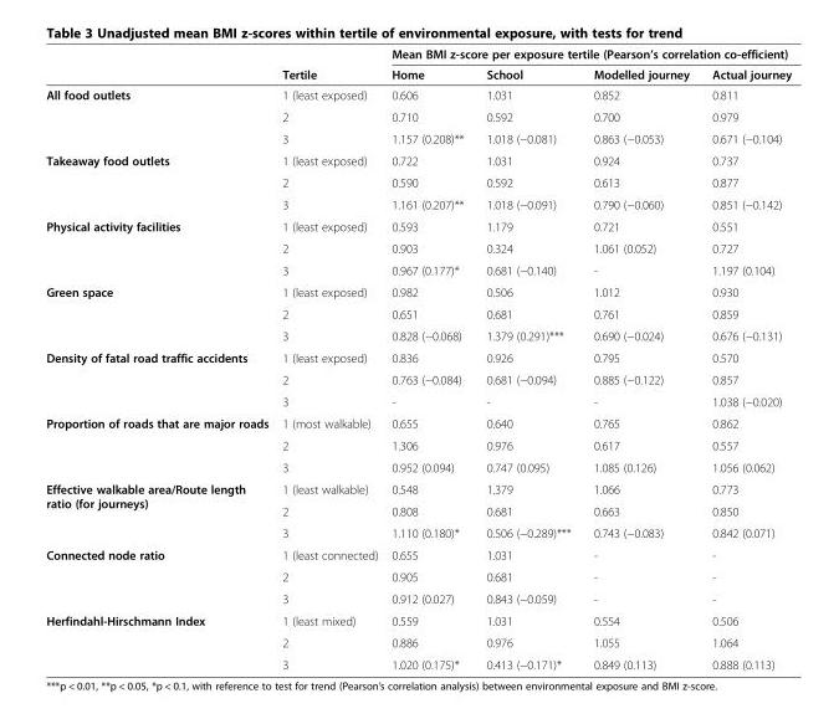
<table><thead><tr><td rowspan="2"></td><td rowspan="2">Tertile</td><td colspan="4">Mean BMI z-score per exposure tertile (Pearson’s correlation co-efficient)</td></tr><tr><td>Home</td><td>School</td><td>Modelled journey</td><td>Actual journey</td></tr></thead><tbody><tr><td rowspan="3">All food outlets</td><td>1 (least exposed)</td><td>0.606</td><td>1.031</td><td>0.852</td><td>0.811</td></tr><tr><td>2</td><td>0.710</td><td>0.592</td><td>0.700</td><td>0.979</td></tr><tr><td>3</td><td>1.157 (0.208)**</td><td>1.018 (−0.081)</td><td>0.863 (−0.053)</td><td>0.671 (−0.104)</td></tr><tr><td rowspan="3">Takeaway food outlets</td><td>1 (least exposed)</td><td>0.722</td><td>1.031</td><td>0.924</td><td>0.737</td></tr><tr><td>2</td><td>0.590</td><td>0.592</td><td>0.613</td><td>0.877</td></tr><tr><td>3</td><td>1.161 (0.207)**</td><td>1.018 (−0.091)</td><td>0.790 (−0.060)</td><td>0.851 (−0.142)</td></tr><tr><td rowspan="3">Physical activity facilities</td><td>1 (least exposed)</td><td>0.593</td><td>1.179</td><td>0.721</td><td>0.551</td></tr><tr><td>2</td><td>0.903</td><td>0.324</td><td>1.061 (0.052)</td><td>0.727</td></tr><tr><td>3</td><td>0.967 (0.177)*</td><td>0.681 (−0.140)</td><td>-</td><td>1.197 (0.104)</td></tr><tr><td rowspan="3">Green space</td><td>1 (least exposed)</td><td>0.982</td><td>0.506</td><td>1.012</td><td>0.930</td></tr><tr><td>2</td><td>0.651</td><td>0.681</td><td>0.761</td><td>0.859</td></tr><tr><td>3</td><td>0.828 (−0.068)</td><td>1.379 (0.291)***</td><td>0.690 (−0.024)</td><td>0.676 (−0.131)</td></tr><tr><td rowspan="3">Density of fatal road traffic accidents</td><td>1 (least exposed)</td><td>0.836</td><td>0.926</td><td>0.795</td><td>0.570</td></tr><tr><td>2</td><td>0.763 (−0.084)</td><td>0.681 (−0.094)</td><td>0.885 (−0.122)</td><td>0.857</td></tr><tr><td>3</td><td>-</td><td>-</td><td>-</td><td>1.038 (−0.020)</td></tr><tr><td rowspan="3">Proportion of roads that are major roads</td><td>1 (most walkable)</td><td>0.655</td><td>0.640</td><td>0.765</td><td>0.862</td></tr><tr><td>2</td><td>1.306</td><td>0.976</td><td>0.617</td><td>0.557</td></tr><tr><td>3</td><td>0.952 (0.094)</td><td>0.747 (0.095)</td><td>1.085 (0.126)</td><td>1.056 (0.062)</td></tr><tr><td rowspan="3">Effective walkable area/Route length ratio (for journeys)</td><td>1 (least walkable)</td><td>0.548</td><td>1.379</td><td>1.066</td><td>0.773</td></tr><tr><td>2</td><td>0.808</td><td>0.681</td><td>0.663</td><td>0.850</td></tr><tr><td>3</td><td>1.110 (0.180)*</td><td>0.506 (−0.289)***</td><td>0.743 (−0.083)</td><td>0.842 (0.071)</td></tr><tr><td rowspan="3">Connected node ratio</td><td>1 (least connected)</td><td>0.655</td><td>1.031</td><td>-</td><td>-</td></tr><tr><td>2</td><td>0.905</td><td>0.681</td><td>-</td><td>-</td></tr><tr><td>3</td><td>0.912 (0.027)</td><td>0.843 (−0.059)</td><td>-</td><td>-</td></tr><tr><td rowspan="3">Herfindahl-Hirschmann Index</td><td>1 (least mixed)</td><td>0.559</td><td>1.031</td><td>0.554</td><td>0.506</td></tr><tr><td>2</td><td>0.886</td><td>0.976</td><td>1.055</td><td>1.064</td></tr><tr><td>3</td><td>1.020 (0.175)*</td><td>0.413 (−0.171)*</td><td>0.849 (0.113)</td><td>0.888 (0.113)</td></tr></tbody></table>